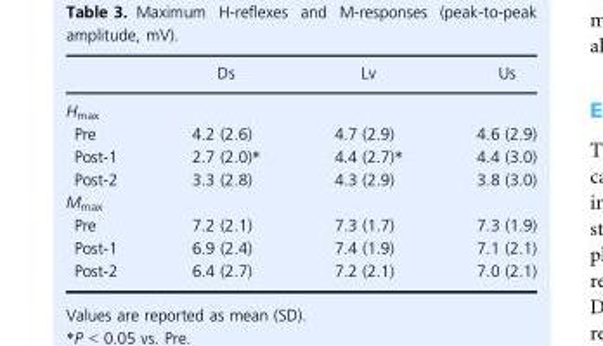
<table><thead><tr><td></td><td>Ds</td><td>Lv</td><td>Us</td></tr></thead><tbody><tr><td colspan="4">H<sub>max</sub></td></tr><tr><td>Pre</td><td>4.2 (2.6)</td><td>4.7 (2.9)</td><td>4.6 (2.9)</td></tr><tr><td>Post-1</td><td>2.7 (2.0)*</td><td>4.4 (2.7)*</td><td>4.4 (3.0)</td></tr><tr><td>Post-2</td><td>3.3 (2.8)</td><td>4.3 (2.9)</td><td>3.8 (3.0)</td></tr><tr><td colspan="4">M<sub>max</sub></td></tr><tr><td>Pre</td><td>7.2 (2.1)</td><td>7.3 (1.7)</td><td>7.3 (1.9)</td></tr><tr><td>Post-1</td><td>6.9 (2.4)</td><td>7.4 (1.9)</td><td>7.1 (2.1)</td></tr><tr><td>Post-2</td><td>6.4 (2.7)</td><td>7.2 (2.1)</td><td>7.0 (2.1)</td></tr></tbody></table>